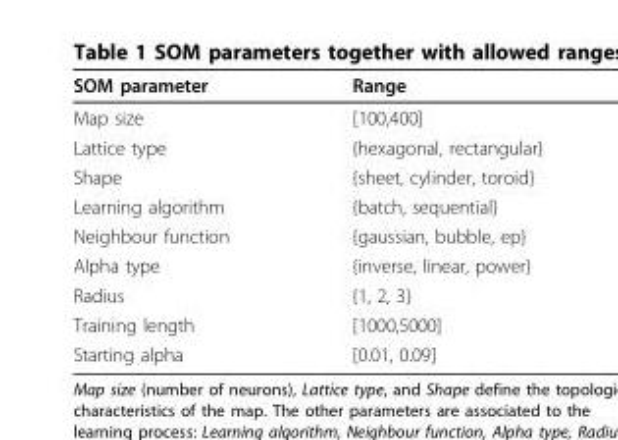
<table><thead><tr><td>SOM parameter</td><td>Range</td></tr></thead><tbody><tr><td>Map size</td><td>[100,400]</td></tr><tr><td>Lattice type</td><td>{hexagonal, rectangular}</td></tr><tr><td>Shape</td><td>{sheet, cylinder, toroid}</td></tr><tr><td>Learning algorithm</td><td>{batch, sequential}</td></tr><tr><td>Neighbour function</td><td>{gaussian, bubble, ep}</td></tr><tr><td>Alpha type</td><td>{inverse, linear, power}</td></tr><tr><td>Radius</td><td>{1, 2, 3}</td></tr><tr><td>Training length</td><td>[1000,5000]</td></tr><tr><td>Starting alpha</td><td>[0.01, 0.09]</td></tr></tbody></table>